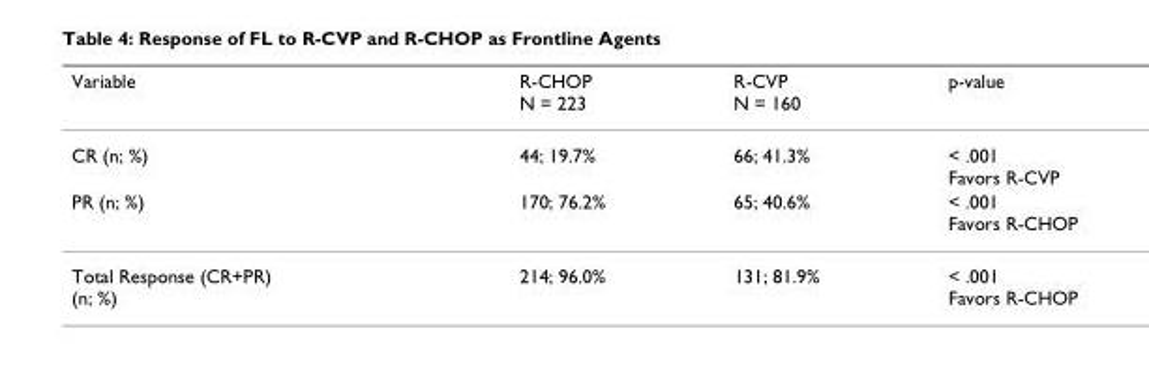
<table><thead><tr><td>Variable</td><td>R-CHOP N = 223</td><td>R-CVP N = 160</td><td>p-value</td></tr></thead><tbody><tr><td>CR (n; %)</td><td>44; 19.7%</td><td>66; 41.3%</td><td>&lt; .001 Favors R-CVP</td></tr><tr><td>PR (n; %)</td><td>170; 76.2%</td><td>65; 40.6%</td><td>&lt; .001 Favors R-CHOP</td></tr><tr><td>Total Response (CR+PR) (n; %)</td><td>214; 96.0%</td><td>131; 81.9%</td><td>&lt; .001 Favors R-CHOP</td></tr></tbody></table>